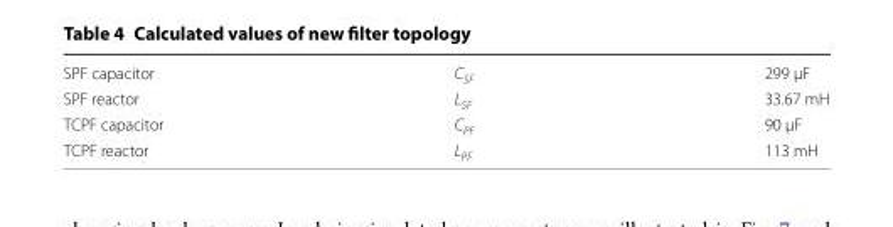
<table><tbody><tr><td>SPF capacitor</td><td>C<sub>SF</sub></td><td>299 µF</td></tr><tr><td>SPF reactor</td><td>L<sub>SF</sub></td><td>33.67 mH</td></tr><tr><td>TCPF capacitor</td><td>C<sub>PF</sub></td><td>90 µF</td></tr><tr><td>TCPF reactor</td><td>L<sub>PF</sub></td><td>113 mH</td></tr></tbody></table>